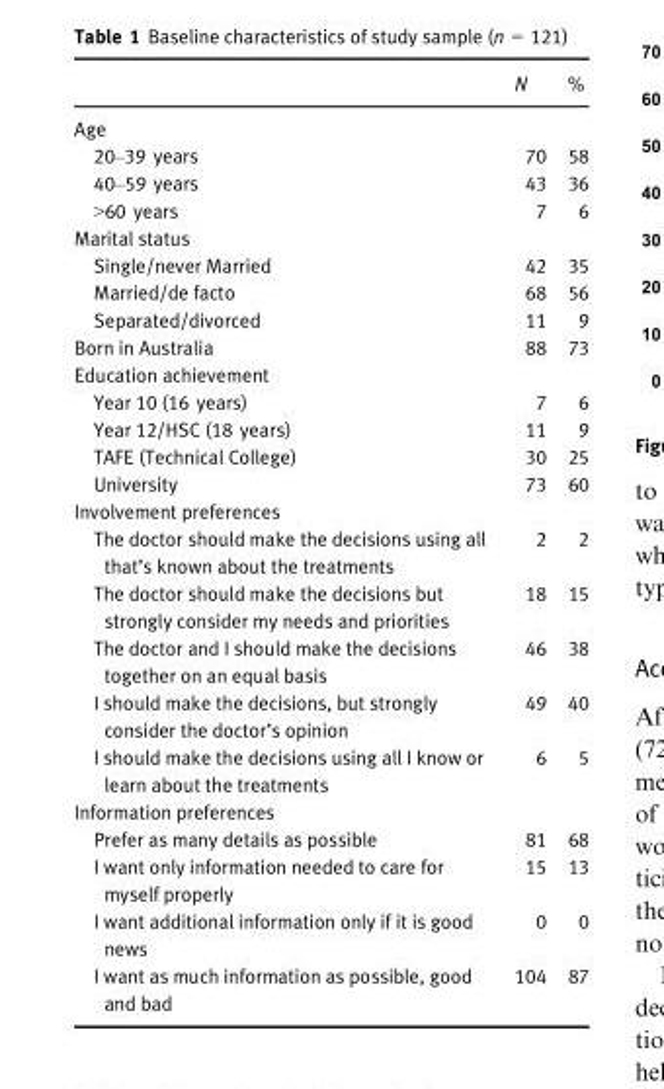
<table><thead><tr><td></td><td>N</td><td>%</td></tr></thead><tbody><tr><td colspan="3">Age</td></tr><tr><td>20–39 years</td><td>70</td><td>58</td></tr><tr><td>40–59 years</td><td>43</td><td>36</td></tr><tr><td>&gt;60 years</td><td>7</td><td>6</td></tr><tr><td colspan="3">Marital status</td></tr><tr><td>Single/never Married</td><td>42</td><td>35</td></tr><tr><td>Married/de facto</td><td>68</td><td>56</td></tr><tr><td>Separated/divorced</td><td>11</td><td>9</td></tr><tr><td>Born in Australia</td><td>88</td><td>73</td></tr><tr><td colspan="3">Education achievement</td></tr><tr><td>Year 10 (16 years)</td><td>7</td><td>6</td></tr><tr><td>Year 12/HSC (18 years)</td><td>11</td><td>9</td></tr><tr><td>TAFE (Technical College)</td><td>30</td><td>25</td></tr><tr><td>University</td><td>73</td><td>60</td></tr><tr><td colspan="3">Involvement preferences</td></tr><tr><td>The doctor should make the decisions using all that’s known about the treatments</td><td>2</td><td>2</td></tr><tr><td>The doctor should make the decisions but strongly consider my needs and priorities</td><td>18</td><td>15</td></tr><tr><td>The doctor and I should make the decisions together on an equal basis</td><td>46</td><td>38</td></tr><tr><td>I should make the decisions, but strongly consider the doctor’s opinion</td><td>49</td><td>40</td></tr><tr><td>I should make the decisions using all I know or learn about the treatments</td><td>6</td><td>5</td></tr><tr><td colspan="3">Information preferences</td></tr><tr><td>Prefer as many details as possible</td><td>81</td><td>68</td></tr><tr><td>I want only information needed to care for myself properly</td><td>15</td><td>13</td></tr><tr><td>I want additional information only if it is good news</td><td>0</td><td>0</td></tr><tr><td>I want as much information as possible, good and bad</td><td>104</td><td>87</td></tr></tbody></table>